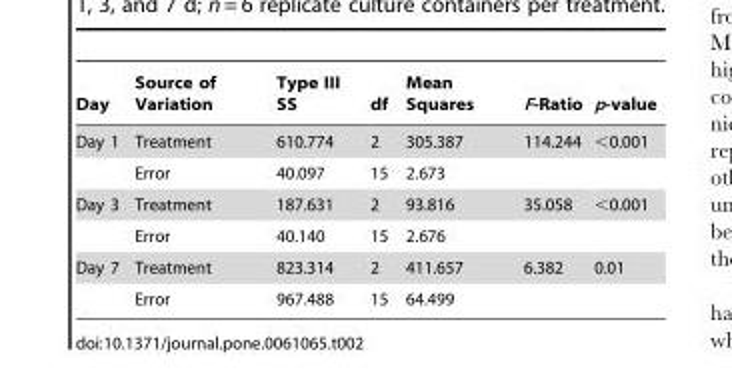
<table><thead><tr><td>Day</td><td>Source of Variation</td><td>Type III SS</td><td>df</td><td>Mean Squares</td><td>F-Ratio</td><td>p-value</td></tr></thead><tbody><tr><td rowspan="2">Day 1</td><td>Treatment</td><td>610.774</td><td>2</td><td>305.387</td><td>114.244</td><td>&lt;0.001</td></tr><tr><td>Error</td><td>40.097</td><td>15</td><td>2.673</td><td></td><td></td></tr><tr><td rowspan="2">Day 3</td><td>Treatment</td><td>187.631</td><td>2</td><td>93.816</td><td>35.058</td><td>&lt;0.001</td></tr><tr><td>Error</td><td>40.140</td><td>15</td><td>2.676</td><td></td><td></td></tr><tr><td rowspan="2">Day 7</td><td>Treatment</td><td>823.314</td><td>2</td><td>411.657</td><td>6.382</td><td>0.01</td></tr><tr><td>Error</td><td>967.488</td><td>15</td><td>64.499</td><td></td><td></td></tr></tbody></table>